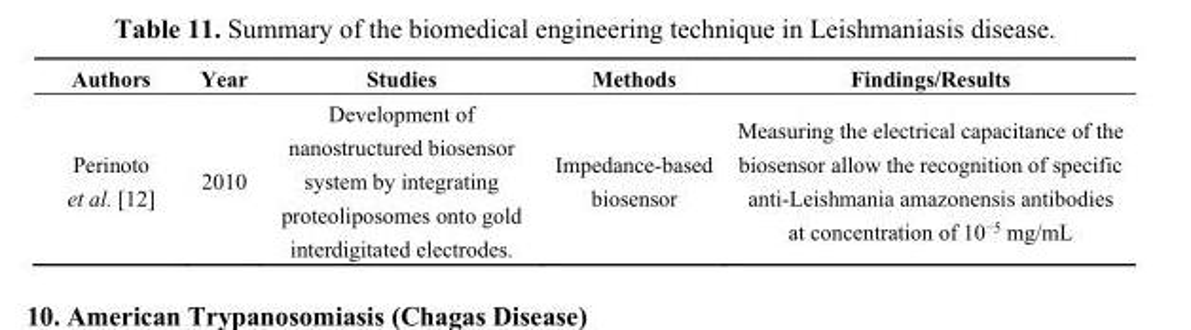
<table><thead><tr><td>Authors</td><td>Year</td><td>Studies</td><td>Methods</td><td>Findings/Results</td></tr></thead><tbody><tr><td>Perinoto et al. [12]</td><td>2010</td><td>Development of nanostructured biosensor system by integrating proteoliposomes onto gold interdigitated electrodes.</td><td>Impedance-based biosensor</td><td>Measuring the electrical capacitance of the biosensor allow the recognition of specific anti-Leishmania amazonensis antibodies at concentration of 10<sup>−5</sup> mg/mL</td></tr></tbody></table>